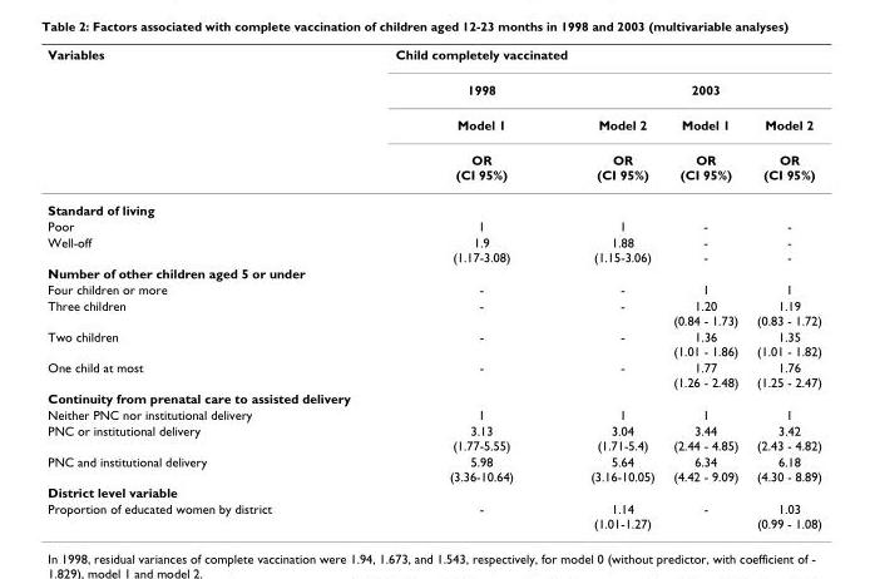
<table><thead><tr><td rowspan="4">Variables</td><td rowspan="4">Child completely vaccinated 1998 Model 1 OR (CI 95%)</td><td rowspan="4">Model 2 OR (CI 95%)</td><td rowspan="4">2003 Model 1 OR (CI 95%)</td><td rowspan="4">Model 2 OR (CI 95%)</td></tr><tr></tr><tr></tr><tr></tr></thead><tbody><tr><td colspan="5">Standard of living</td></tr><tr><td>Poor</td><td>1</td><td>1</td><td>-</td><td>-</td></tr><tr><td>Well-off</td><td>1.9 (1.17-3.08)</td><td>1.88 (1.15-3.06)</td><td>- -</td><td>- -</td></tr><tr><td colspan="5">Number of other children aged 5 or under</td></tr><tr><td>Four children or more</td><td>-</td><td>-</td><td>1</td><td>1</td></tr><tr><td>Three children</td><td>-</td><td>-</td><td>1.20 (0.84 - 1.73)</td><td>1.19 (0.83 - 1.72)</td></tr><tr><td>Two children</td><td>-</td><td>-</td><td>1.36 (1.01 - 1.86)</td><td>1.35 (1.01 - 1.82)</td></tr><tr><td>One child at most</td><td>-</td><td>-</td><td>1.77 (1.26 - 2.48)</td><td>1.76 (1.25 - 2.47)</td></tr><tr><td colspan="5">Continuity from prenatal care to assisted delivery</td></tr><tr><td>Neither PNC nor institutional delivery</td><td>1</td><td>1</td><td>1</td><td>1</td></tr><tr><td>PNC or institutional delivery</td><td>3.13 (1.77-5.55)</td><td>3.04 (1.71-5.4)</td><td>3.44 (2.44 - 4.85)</td><td>3.42 (2.43 - 4.82)</td></tr><tr><td>PNC and institutional delivery</td><td>5.98 (3.36-10.64)</td><td>5.64 (3.16-10.05)</td><td>6.34 (4.42 - 9.09)</td><td>6.18 (4.30 - 8.89)</td></tr><tr><td colspan="5">District level variable</td></tr><tr><td>Proportion of educated women by district</td><td>-</td><td>1.14 (1.01-1.27)</td><td>-</td><td>1.03 (0.99 - 1.08)</td></tr></tbody></table>